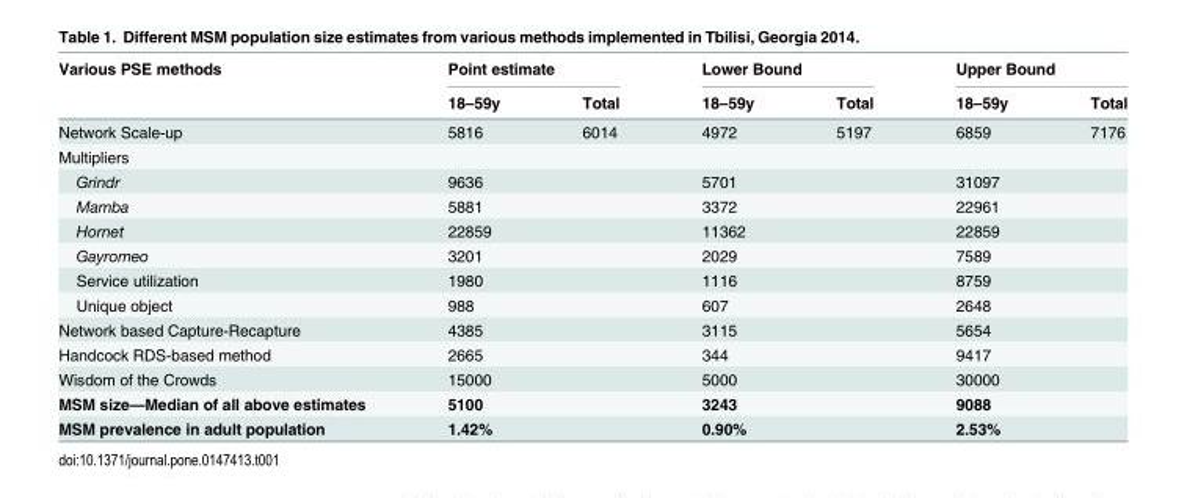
<table><thead><tr><td rowspan="2">Various PSE methods</td><td colspan="2">Point estimate</td><td colspan="2">Lower Bound</td><td colspan="2">Upper Bound</td></tr><tr><td>18–59y</td><td>Total</td><td>18–59y</td><td>Total</td><td>18–59y</td><td>Total</td></tr></thead><tbody><tr><td>Network Scale-up</td><td>5816</td><td>6014</td><td>4972</td><td>5197</td><td>6859</td><td>7176</td></tr><tr><td colspan="7">Multipliers</td></tr><tr><td>Grindr</td><td>9636</td><td></td><td>5701</td><td></td><td>31097</td><td></td></tr><tr><td>Mamba</td><td>5881</td><td></td><td>3372</td><td></td><td>22961</td><td></td></tr><tr><td>Hornet</td><td>22859</td><td></td><td>11362</td><td></td><td>22859</td><td></td></tr><tr><td>Gayromeo</td><td>3201</td><td></td><td>2029</td><td></td><td>7589</td><td></td></tr><tr><td>Service utilization</td><td>1980</td><td></td><td>1116</td><td></td><td>8759</td><td></td></tr><tr><td>Unique object</td><td>988</td><td></td><td>607</td><td></td><td>2648</td><td></td></tr><tr><td>Network based Capture-Recapture</td><td>4385</td><td></td><td>3115</td><td></td><td>5654</td><td></td></tr><tr><td>Handcock RDS-based method</td><td>2665</td><td></td><td>344</td><td></td><td>9417</td><td></td></tr><tr><td>Wisdom of the Crowds</td><td>15000</td><td></td><td>5000</td><td></td><td>30000</td><td></td></tr><tr><td>MSM size—Median of all above estimates</td><td>5100</td><td></td><td>3243</td><td></td><td>9088</td><td></td></tr><tr><td>MSM prevalence in adult population</td><td>1.42%</td><td></td><td>0.90%</td><td></td><td>2.53%</td><td></td></tr></tbody></table>